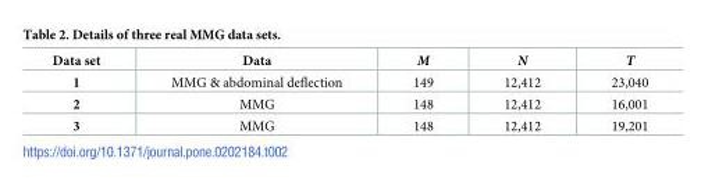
<table><thead><tr><td>Data set</td><td>Data</td><td>M</td><td>N</td><td>T</td></tr></thead><tbody><tr><td>1</td><td>MMG &amp; abdominal deflection</td><td>149</td><td>12,412</td><td>23,040</td></tr><tr><td>2</td><td>MMG</td><td>148</td><td>12,412</td><td>16,001</td></tr><tr><td>3</td><td>MMG</td><td>148</td><td>12,412</td><td>19,201</td></tr></tbody></table>